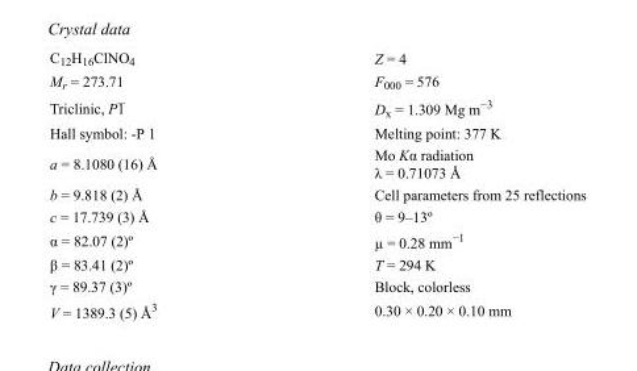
<table><tbody><tr><td>C<sub>12</sub>H<sub>16</sub>ClNO<sub>4</sub></td><td>Z = 4</td></tr><tr><td>M<sub>r</sub> = 273.71</td><td>F000 = 576</td></tr><tr><td>Triclinic, P1</td><td>D<sub>x</sub> = 1.309 Mg m<sup>−3</sup></td></tr><tr><td>Hall symbol: -P 1</td><td>Melting point: 377 K</td></tr><tr><td>a = 8.1080 (16) Å</td><td>Mo Kα radiation λ = 0.71073 Å</td></tr><tr><td>b = 9.818 (2) Å</td><td>Cell parameters from 25 reflections</td></tr><tr><td>c = 17.739 (3) Å</td><td>θ = 9–13º</td></tr><tr><td>α = 82.07 (2)º</td><td>µ = 0.28 mm<sup>−1</sup></td></tr><tr><td>β = 83.41 (2)º</td><td>T = 294 K</td></tr><tr><td>γ = 89.37 (3)º</td><td>Block, colorless</td></tr><tr><td>V = 1389.3 (5) Å<sup>3</sup></td><td>0.30 × 0.20 × 0.10 mm</td></tr></tbody></table>